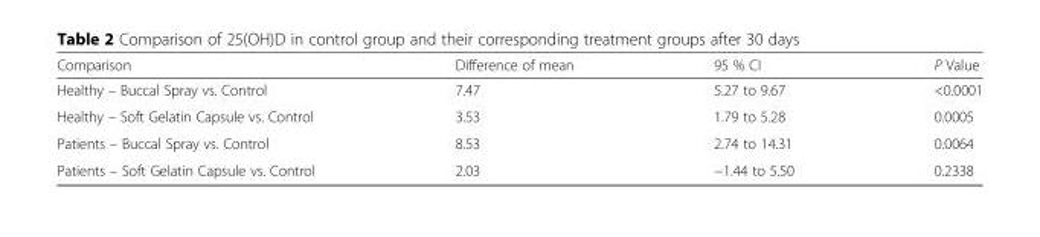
<table><thead><tr><td>Comparison</td><td>Difference of mean</td><td>95 % CI</td><td>P Value</td></tr></thead><tbody><tr><td>Healthy – Buccal Spray vs. Control</td><td>7.47</td><td>5.27 to 9.67</td><td>&lt;0.0001</td></tr><tr><td>Healthy – Soft Gelatin Capsule vs. Control</td><td>3.53</td><td>1.79 to 5.28</td><td>0.0005</td></tr><tr><td>Patients – Buccal Spray vs. Control</td><td>8.53</td><td>2.74 to 14.31</td><td>0.0064</td></tr><tr><td>Patients – Soft Gelatin Capsule vs. Control</td><td>2.03</td><td>−1.44 to 5.50</td><td>0.2338</td></tr></tbody></table>